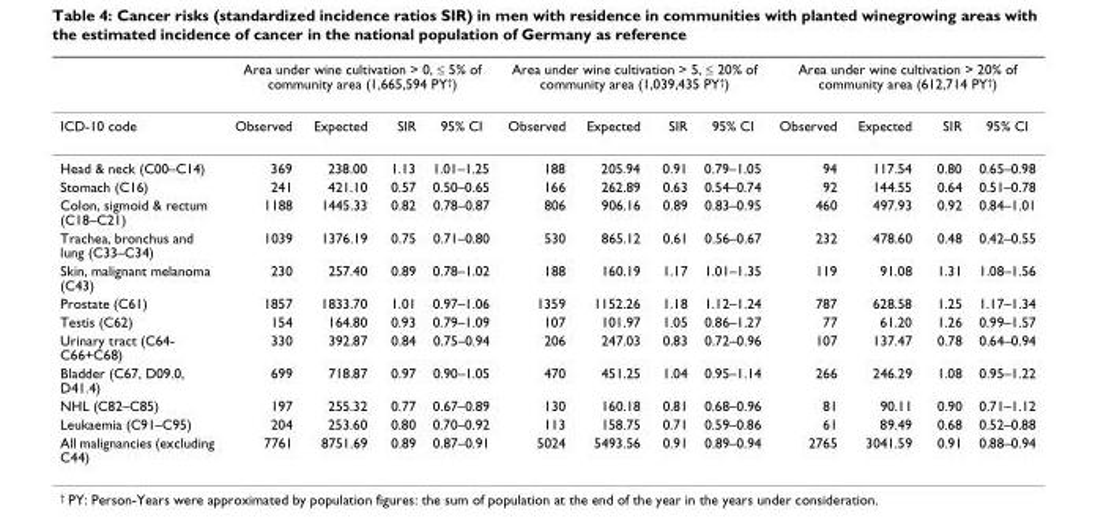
<table><thead><tr><td rowspan="2">ICD-10 code</td><td colspan="4">Area under wine cultivation &gt; 0, ≤ 5% of community area (1,665,594 PY<sup>†</sup>)</td><td colspan="4">Area under wine cultivation &gt; 5, ≤ 20% of community area (1,039,435 PY<sup>†</sup>)</td><td colspan="4">Area under wine cultivation &gt; 20% of community area (612,714 PY<sup>†</sup>)</td></tr><tr><td>Observed</td><td>Expected</td><td>SIR</td><td>95% CI</td><td>Observed</td><td>Expected</td><td>SIR</td><td>95% CI</td><td>Observed</td><td>Expected</td><td>SIR</td><td>95% CI</td></tr></thead><tbody><tr><td>Head &amp; neck (C00–C14)</td><td>369</td><td>238.00</td><td>1.13</td><td>1.01–1.25</td><td>188</td><td>205.94</td><td>0.91</td><td>0.79–1.05</td><td>94</td><td>117.54</td><td>0.80</td><td>0.65–0.98</td></tr><tr><td>Stomach (C16)</td><td>241</td><td>421.10</td><td>0.57</td><td>0.50–0.65</td><td>166</td><td>262.89</td><td>0.63</td><td>0.54–0.74</td><td>92</td><td>144.55</td><td>0.64</td><td>0.51–0.78</td></tr><tr><td>Colon, sigmoid &amp; rectum (C18–C21)</td><td>1188</td><td>1445.33</td><td>0.82</td><td>0.78–0.87</td><td>806</td><td>906.16</td><td>0.89</td><td>0.83–0.95</td><td>460</td><td>497.93</td><td>0.92</td><td>0.84–1.01</td></tr><tr><td>Trachea, bronchus and lung (C33–C34)</td><td>1039</td><td>1376.19</td><td>0.75</td><td>0.71–0.80</td><td>530</td><td>865.12</td><td>0.61</td><td>0.56–0.67</td><td>232</td><td>478.60</td><td>0.48</td><td>0.42–0.55</td></tr><tr><td>Skin, malignant melanoma (C43)</td><td>230</td><td>257.40</td><td>0.89</td><td>0.78–1.02</td><td>188</td><td>160.19</td><td>1.17</td><td>1.01–1.35</td><td>119</td><td>91.08</td><td>1.31</td><td>1.08–1.56</td></tr><tr><td>Prostate (C61)</td><td>1857</td><td>1833.70</td><td>1.01</td><td>0.97–1.06</td><td>1359</td><td>1152.26</td><td>1.18</td><td>1.12–1.24</td><td>787</td><td>628.58</td><td>1.25</td><td>1.17–1.34</td></tr><tr><td>Testis (C62)</td><td>154</td><td>164.80</td><td>0.93</td><td>0.79–1.09</td><td>107</td><td>101.97</td><td>1.05</td><td>0.86–1.27</td><td>77</td><td>61.20</td><td>1.26</td><td>0.99–1.57</td></tr><tr><td>Urinary tract (C64- C66+C68)</td><td>330</td><td>392.87</td><td>0.84</td><td>0.75–0.94</td><td>206</td><td>247.03</td><td>0.83</td><td>0.72–0.96</td><td>107</td><td>137.47</td><td>0.78</td><td>0.64–0.94</td></tr><tr><td>Bladder (C67, D09.0, D41.4)</td><td>699</td><td>718.87</td><td>0.97</td><td>0.90–1.05</td><td>470</td><td>451.25</td><td>1.04</td><td>0.95–1.14</td><td>266</td><td>246.29</td><td>1.08</td><td>0.95–1.22</td></tr><tr><td>NHL (C82–C85)</td><td>197</td><td>255.32</td><td>0.77</td><td>0.67–0.89</td><td>130</td><td>160.18</td><td>0.81</td><td>0.68–0.96</td><td>81</td><td>90.11</td><td>0.90</td><td>0.71–1.12</td></tr><tr><td>Leukaemia (C91–C95)</td><td>204</td><td>253.60</td><td>0.80</td><td>0.70–0.92</td><td>113</td><td>158.75</td><td>0.71</td><td>0.59–0.86</td><td>61</td><td>89.49</td><td>0.68</td><td>0.52–0.88</td></tr><tr><td>All malignancies (excluding C44)</td><td>7761</td><td>8751.69</td><td>0.89</td><td>0.87–0.91</td><td>5024</td><td>5493.56</td><td>0.91</td><td>0.89–0.94</td><td>2765</td><td>3041.59</td><td>0.91</td><td>0.88–0.94</td></tr></tbody></table>